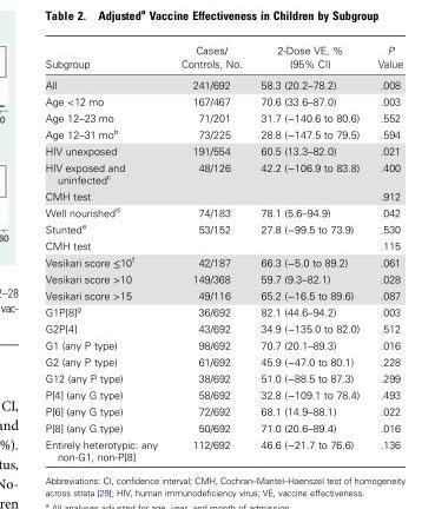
<table><thead><tr><td>Subgroup</td><td>Cases/ Controls, No.</td><td>2-Dose VE, % (95% CI)</td><td>P Value</td></tr></thead><tbody><tr><td>All</td><td>241/692</td><td>58.3 (20.2–78.2)</td><td>.008</td></tr><tr><td>Age &lt;12 mo</td><td>167/467</td><td>70.6 (33.6–87.0)</td><td>.003</td></tr><tr><td>Age 12–23 mo</td><td>71/201</td><td>31.7 (−140.6 to 80.6)</td><td>.552</td></tr><tr><td>Age 12–31 mo<sup>b</sup></td><td>73/225</td><td>28.8 (−147.5 to 79.5)</td><td>.594</td></tr><tr><td>HIV unexposed</td><td>191/554</td><td>60.5 (13.3–82.0)</td><td>.021</td></tr><tr><td>HIV exposed and uninfected<sup>c</sup></td><td>48/126</td><td>42.2 (−106.9 to 83.8)</td><td>.400</td></tr><tr><td>CMH test</td><td></td><td></td><td>.912</td></tr><tr><td>Well nourished<sup>d</sup></td><td>74/183</td><td>78.1 (5.6–94.9)</td><td>.042</td></tr><tr><td>Stunted<sup>e</sup></td><td>53/152</td><td>27.8 (−99.5 to 73.9)</td><td>.530</td></tr><tr><td>CMH test</td><td></td><td></td><td>.115</td></tr><tr><td>Vesikari score ≤10<sup>f</sup></td><td>42/187</td><td>66.3 (−5.0 to 89.2)</td><td>.061</td></tr><tr><td>Vesikari score &gt;10</td><td>149/368</td><td>59.7 (9.3–82.1)</td><td>.028</td></tr><tr><td>Vesikari score &gt;15</td><td>49/116</td><td>65.2 (−16.5 to 89.6)</td><td>.087</td></tr><tr><td>G1P[8]<sup>g</sup></td><td>36/692</td><td>82.1 (44.6–94.2)</td><td>.003</td></tr><tr><td>G2P[4]</td><td>43/692</td><td>34.9 (−135.0 to 82.0)</td><td>.512</td></tr><tr><td>G1 (any P type)</td><td>98/692</td><td>70.7 (20.1–89.3)</td><td>.016</td></tr><tr><td>G2 (any P type)</td><td>61/692</td><td>45.9 (−47.0 to 80.1)</td><td>.228</td></tr><tr><td>G12 (any P type)</td><td>38/692</td><td>51.0 (−88.5 to 87.3)</td><td>.299</td></tr><tr><td>P[4] (any G type)</td><td>58/692</td><td>32.8 (−109.1 to 78.4)</td><td>.493</td></tr><tr><td>P[6] (any G type)</td><td>72/692</td><td>68.1 (14.9–88.1)</td><td>.022</td></tr><tr><td>P[8] (any G type)</td><td>50/692</td><td>71.0 (20.6–89.4)</td><td>.016</td></tr><tr><td>Entirely heterotypic: any non-G1, non-P[8]</td><td>112/692</td><td>46.6 (−21.7 to 76.6)</td><td>.136</td></tr></tbody></table>